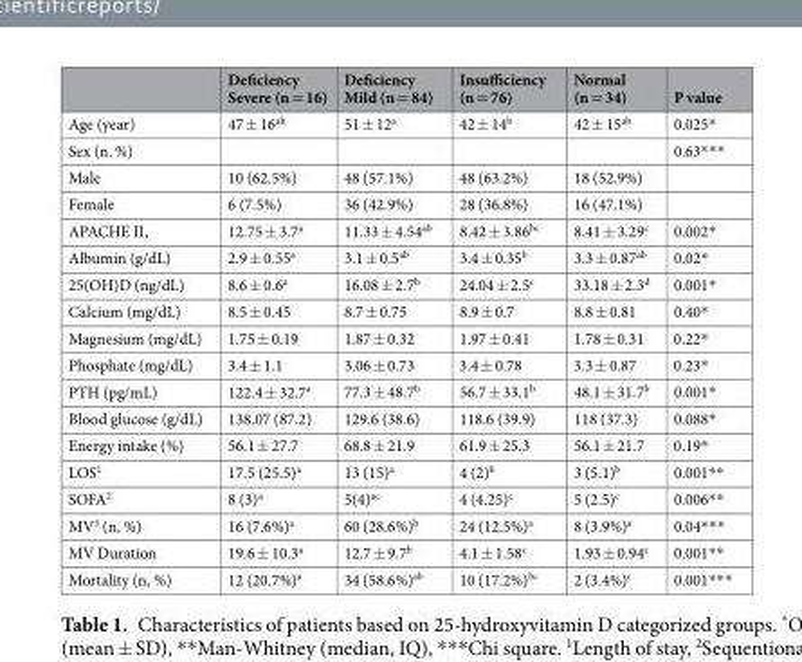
<table><thead><tr><td></td><td>Deficiency Severe (n = 16)</td><td>Deficiency Mild (n = 84)</td><td>Insufficiency (n = 76)</td><td>Normal (n = 34)</td><td>P value</td></tr></thead><tbody><tr><td>Age (year)</td><td>47 ± 16<sup>ab</sup></td><td>51 ± 12<sup>a</sup></td><td>42 ± 14<sup>b</sup></td><td>42 ± 15<sup>ab</sup></td><td>0.025*</td></tr><tr><td>Sex (n. %)</td><td></td><td></td><td></td><td></td><td>0.63***</td></tr><tr><td>Male</td><td>10 (62.5%)</td><td>48 (57.1%)</td><td>48 (63.2%)</td><td>18 (52.9%)</td><td></td></tr><tr><td>Female</td><td>6 (7.5%)</td><td>36 (42.9%)</td><td>28 (36.8%)</td><td>16 (47.1%)</td><td></td></tr><tr><td>APACHE II,</td><td>12.75 ± 3.7<sup>a</sup></td><td>11.33 ± 4.54<sup>ab</sup></td><td>8.42 ± 3.86<sup>bc</sup></td><td>8.41 ± 3.29<sup>c</sup></td><td>0.002*</td></tr><tr><td>Albumin (g/dL)</td><td>2.9 ± 0.55<sup>a</sup></td><td>3.1 ± 0.5<sup>ab</sup></td><td>3.4 ± 0.35<sup>b</sup></td><td>3.3 ± 0.87<sup>ab</sup></td><td>0.02*</td></tr><tr><td>25(OH)D (ng/dL)</td><td>8.6 ± 0.6<sup>a</sup></td><td>16.08 ± 2.7<sup>b</sup></td><td>24.04 ± 2.5<sup>c</sup></td><td>33.18 ± 2.3<sup>d</sup></td><td>0.001*</td></tr><tr><td>Calcium (mg/dL)</td><td>8.5 ± 0.45</td><td>8.7 ± 0.75</td><td>8.9 ± 0.7</td><td>8.8 ± 0.81</td><td>0.40*</td></tr><tr><td>Magnesium (mg/dL)</td><td>1.75 ± 0.19</td><td>1.87 ± 0.32</td><td>1.97 ± 0.41</td><td>1.78 ± 0.31</td><td>0.22*</td></tr><tr><td>Phosphate (mg/dL)</td><td>3.4 ± 1.1</td><td>3.06 ± 0.73</td><td>3.4 ± 0.78</td><td>3.3 ± 0.87</td><td>0.23*</td></tr><tr><td>PTH (pg/mL)</td><td>122.4 ± 32.7<sup>a</sup></td><td>77.3 ± 48.7<sup>b</sup></td><td>56.7 ± 33.1<sup>b</sup></td><td>48.1 ± 31.7<sup>b</sup></td><td>0.001*</td></tr><tr><td>Blood glucose (g/dL)</td><td>138.07 (87.2)</td><td>129.6 (38.6)</td><td>118.6 (39.9)</td><td>118 (37.3)</td><td>0.088*</td></tr><tr><td>Energy intake (%)</td><td>56.1 ± 27.7</td><td>68.8 ± 21.9</td><td>61.9 ± 25.3</td><td>56.1 ± 21.7</td><td>0.19*</td></tr><tr><td>LOS<sup>1</sup></td><td>17.5 (25.5)<sup>a</sup></td><td>13 (15)<sup>a</sup></td><td>4 (2)<sup>b</sup></td><td>3 (5.1)<sup>b</sup></td><td>0.001**</td></tr><tr><td>SOFA<sup>2</sup></td><td>8 (3)<sup>a</sup></td><td>5(4)<sup>ac</sup></td><td>4 (4.25)<sup>c</sup></td><td>5 (2.5)<sup>c</sup></td><td>0.006**</td></tr><tr><td>MV<sup>3</sup> (n, %)</td><td>16 (7.6%)<sup>a</sup></td><td>60 (28.6%)<sup>b</sup></td><td>24 (12.5%)<sup>a</sup></td><td>8 (3.9%)<sup>a</sup></td><td>0.04***</td></tr><tr><td>MV Duration</td><td>19.6 ± 10.3<sup>a</sup></td><td>12.7 ± 9.7<sup>b</sup></td><td>4.1 ± 1.58<sup>c</sup></td><td>1.93 ± 0.94<sup>c</sup></td><td>0.001**</td></tr><tr><td>Mortality (n, %)</td><td>12 (20.7%)<sup>a</sup></td><td>34 (58.6%)<sup>ab</sup></td><td>10 (17.2%)<sup>bc</sup></td><td>2 (3.4%)<sup>c</sup></td><td>0.001***</td></tr></tbody></table>